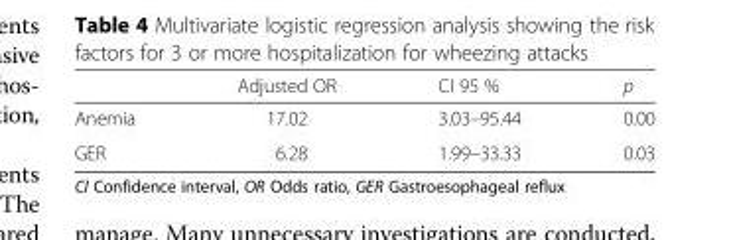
<table><thead><tr><td></td><td>Adjusted OR</td><td>CI 95 %</td><td>p</td></tr></thead><tbody><tr><td>Anemia</td><td>17.02</td><td>3.03–95.44</td><td>0.00</td></tr><tr><td>GER</td><td>6.28</td><td>1.99–33.33</td><td>0.03</td></tr></tbody></table>